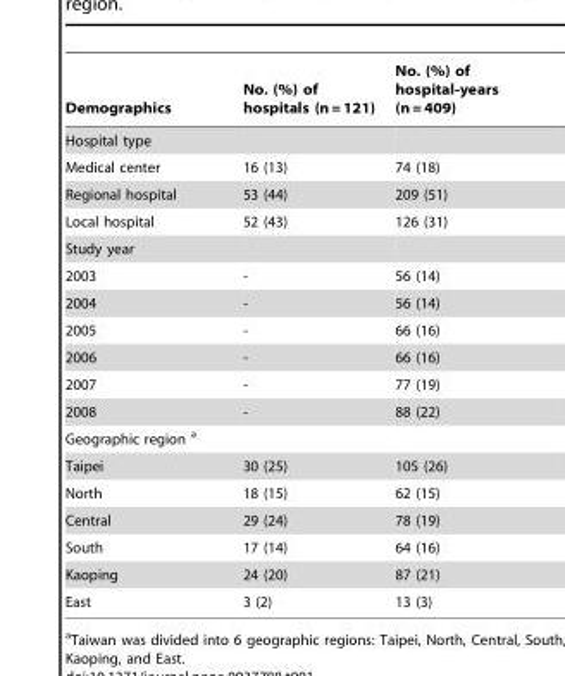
<table><thead><tr><td>Demographics</td><td>No. (%) of hospitals (n = 121)</td><td>No. (%) of hospital-years (n = 409)</td></tr></thead><tbody><tr><td colspan="3">Hospital type</td></tr><tr><td>Medical center</td><td>16 (13)</td><td>74 (18)</td></tr><tr><td>Regional hospital</td><td>53 (44)</td><td>209 (51)</td></tr><tr><td>Local hospital</td><td>52 (43)</td><td>126 (31)</td></tr><tr><td colspan="3">Study year</td></tr><tr><td>2003</td><td>-</td><td>56 (14)</td></tr><tr><td>2004</td><td>-</td><td>56 (14)</td></tr><tr><td>2005</td><td>-</td><td>66 (16)</td></tr><tr><td>2006</td><td>-</td><td>66 (16)</td></tr><tr><td>2007</td><td>-</td><td>77 (19)</td></tr><tr><td>2008</td><td>-</td><td>88 (22)</td></tr><tr><td colspan="3">Geographic region a</td></tr><tr><td>Taipei</td><td>30 (25)</td><td>105 (26)</td></tr><tr><td>North</td><td>18 (15)</td><td>62 (15)</td></tr><tr><td>Central</td><td>29 (24)</td><td>78 (19)</td></tr><tr><td>South</td><td>17 (14)</td><td>64 (16)</td></tr><tr><td>Kaoping</td><td>24 (20)</td><td>87 (21)</td></tr><tr><td>East</td><td>3 (2)</td><td>13 (3)</td></tr></tbody></table>